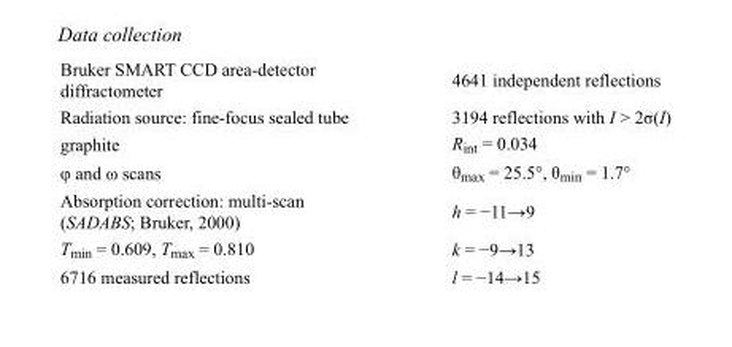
<table><tbody><tr><td>Bruker SMART CCD area-detector diffractometer</td><td>4641 independent reflections</td></tr><tr><td>Radiation source: fine-focus sealed tube</td><td>3194 reflections with I &gt; 2σ(I)</td></tr><tr><td>graphite</td><td>R<sub>int</sub> = 0.034</td></tr><tr><td>φ and ω scans</td><td>θ<sub>max</sub> = 25.5°, θ<sub>min</sub> = 1.7°</td></tr><tr><td>Absorption correction: multi-scan (SADABS; Bruker, 2000)</td><td>h = −11→9</td></tr><tr><td>T<sub>min</sub> = 0.609, T<sub>max</sub> = 0.810</td><td>k = −9→13</td></tr><tr><td>6716 measured reflections</td><td>l = −14→15</td></tr></tbody></table>